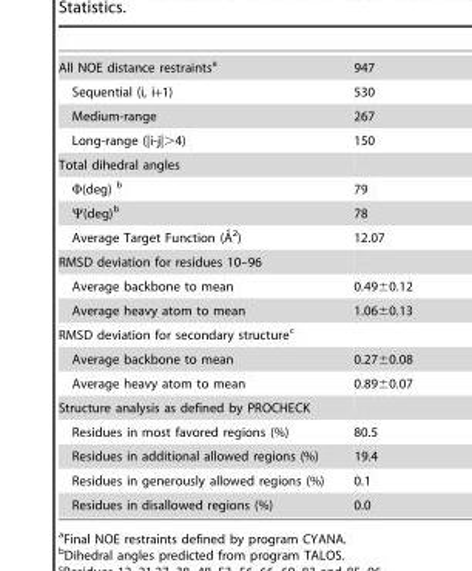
<table><tbody><tr><td>All NOE distance restraints<sup>a</sup></td><td>947</td></tr><tr><td>Sequential (i, i+1)</td><td>530</td></tr><tr><td>Medium-range</td><td>267</td></tr><tr><td>Long-range (|i-j|&gt;4)</td><td>150</td></tr><tr><td colspan="2">Total dihedral angles</td></tr><tr><td>Φ(deg) b</td><td>79</td></tr><tr><td>Ψ(deg)<sup>b</sup></td><td>78</td></tr><tr><td>Average Target Function (A˚ 2)</td><td>12.07</td></tr><tr><td colspan="2">RMSD deviation for residues 10–96</td></tr><tr><td>Average backbone to mean</td><td>0.49±0.12</td></tr><tr><td>Average heavy atom to mean</td><td>1.06±0.13</td></tr><tr><td colspan="2">RMSD deviation for secondary structure<sup>c</sup></td></tr><tr><td>Average backbone to mean</td><td>0.27±0.08</td></tr><tr><td>Average heavy atom to mean</td><td>0.89±0.07</td></tr><tr><td colspan="2">Structure analysis as defined by PROCHECK</td></tr><tr><td>Residues in most favored regions (%)</td><td>80.5</td></tr><tr><td>Residues in additional allowed regions (%)</td><td>19.4</td></tr><tr><td>Residues in generously allowed regions (%)</td><td>0.1</td></tr><tr><td>Residues in disallowed regions (%)</td><td>0.0</td></tr></tbody></table>